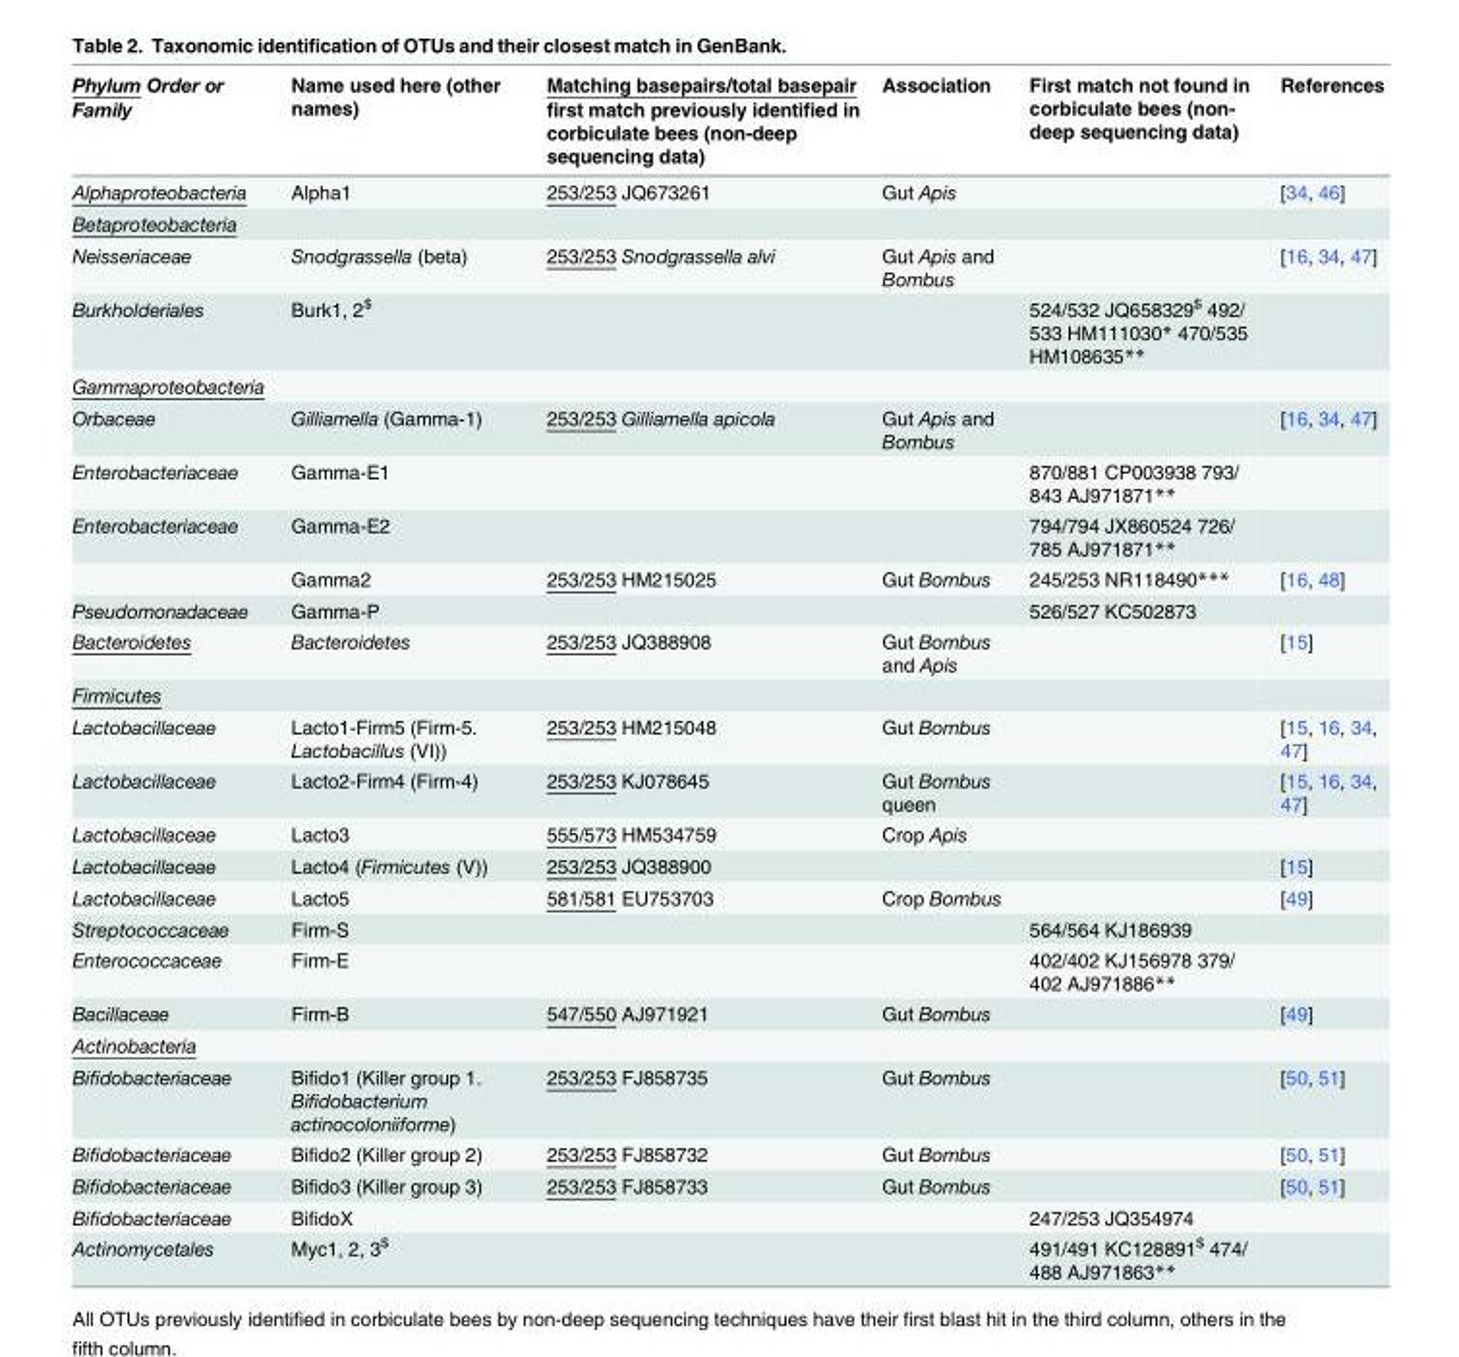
<table><thead><tr><td>Phylum Order or Family</td><td>Name used here (other names)</td><td>Matching basepairs/total basepair first match previously identified in corbiculate bees (non-deep sequencing data)</td><td>Association</td><td>First match not found in corbiculate bees (non- deep sequencing data)</td><td>References</td></tr></thead><tbody><tr><td>Alphaproteobacteria</td><td>Alpha1</td><td>253/253 JQ673261</td><td>Gut Apis</td><td></td><td>[34, 46]</td></tr><tr><td colspan="6">Betaproteobacteria</td></tr><tr><td>Neisseriaceae</td><td>Snodgrassella (beta)</td><td>253/253 Snodgrassella alvi</td><td>Gut Apis and Bombus</td><td></td><td>[16, 34, 47]</td></tr><tr><td>Burkholderiales</td><td>Burk1, 2<sup>$</sup></td><td></td><td></td><td>524/532 JQ658329<sup>$</sup> 492/ 533 HM111030* 470/535 HM108635**</td><td></td></tr><tr><td colspan="6">Gammaproteobacteria</td></tr><tr><td>Orbaceae</td><td>Gilliamella (Gamma-1)</td><td>253/253 Gilliamella apicola</td><td>Gut Apis and Bombus</td><td></td><td>[16, 34, 47]</td></tr><tr><td>Enterobacteriaceae</td><td>Gamma-E1</td><td></td><td></td><td>870/881 CP003938 793/ 843 AJ971871**</td><td></td></tr><tr><td rowspan="2">Enterobacteriaceae</td><td>Gamma-E2</td><td></td><td></td><td>794/794 JX860524 726/ 785 AJ971871**</td><td></td></tr><tr><td>Gamma2</td><td>253/253 HM215025</td><td>Gut Bombus</td><td>245/253 NR118490***</td><td>[16, 48]</td></tr><tr><td>Pseudomonadaceae</td><td>Gamma-P</td><td></td><td></td><td>526/527 KC502873</td><td></td></tr><tr><td>Bacteroidetes</td><td>Bacteroidetes</td><td>253/253 JQ388908</td><td>Gut Bombus and Apis</td><td></td><td>[15]</td></tr><tr><td colspan="6">Firmicutes</td></tr><tr><td>Lactobacillaceae</td><td>Lacto1-Firm5 (Firm-5. Lactobacillus (VI))</td><td>253/253 HM215048</td><td>Gut Bombus</td><td></td><td>[15, 16, 34, 47]</td></tr><tr><td>Lactobacillaceae</td><td>Lacto2-Firm4 (Firm-4)</td><td>253/253 KJ078645</td><td>Gut Bombus queen</td><td></td><td>[15, 16, 34, 47]</td></tr><tr><td>Lactobacillaceae</td><td>Lacto3</td><td>555/573 HM534759</td><td>Crop Apis</td><td></td><td></td></tr><tr><td>Lactobacillaceae</td><td>Lacto4 (Firmicutes (V))</td><td>253/253 JQ388900</td><td></td><td></td><td>[15]</td></tr><tr><td>Lactobacillaceae</td><td>Lacto5</td><td>581/581 EU753703</td><td>Crop Bombus</td><td></td><td>[49]</td></tr><tr><td>Streptococcaceae</td><td>Firm-S</td><td></td><td></td><td>564/564 KJ186939</td><td></td></tr><tr><td>Enterococcaceae</td><td>Firm-E</td><td></td><td></td><td>402/402 KJ156978 379/ 402 AJ971886**</td><td></td></tr><tr><td>Bacillaceae</td><td>Firm-B</td><td>547/550 AJ971921</td><td>Gut Bombus</td><td></td><td>[49]</td></tr><tr><td colspan="6">Actinobacteria</td></tr><tr><td>Bifidobacteriaceae</td><td>Bifido1 (Killer group 1. Bifidobacterium actinocoloniiforme)</td><td>253/253 FJ858735</td><td>Gut Bombus</td><td></td><td>[50, 51]</td></tr><tr><td>Bifidobacteriaceae</td><td>Bifido2 (Killer group 2)</td><td>253/253 FJ858732</td><td>Gut Bombus</td><td></td><td>[50, 51]</td></tr><tr><td>Bifidobacteriaceae</td><td>Bifido3 (Killer group 3)</td><td>253/253 FJ858733</td><td>Gut Bombus</td><td></td><td>[50, 51]</td></tr><tr><td>Bifidobacteriaceae</td><td>BifidoX</td><td></td><td></td><td>247/253 JQ354974</td><td></td></tr><tr><td>Actinomycetales</td><td>Myc1, 2, 3<sup>$</sup></td><td></td><td></td><td>491/491 KC128891<sup>$</sup> 474/ 488 AJ971863**</td><td></td></tr></tbody></table>